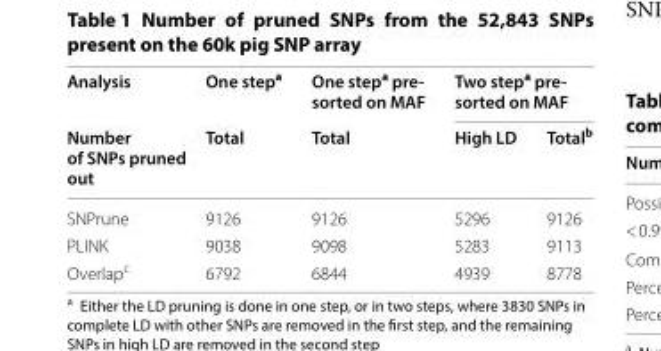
<table><thead><tr><td rowspan="2">Analysis Number of SNPs pruned out</td><td rowspan="2">One step<sup>a</sup> Total</td><td rowspan="2">One step<sup>a</sup> pre- sorted on MAF Total</td><td colspan="2">Two step<sup>a</sup> pre- sorted on MAF</td></tr><tr><td>High LD</td><td>Total<sup>b</sup></td></tr></thead><tbody><tr><td>SNPrune</td><td>9126</td><td>9126</td><td>5296</td><td>9126</td></tr><tr><td>PLINK</td><td>9038</td><td>9098</td><td>5283</td><td>9113</td></tr><tr><td>Overlap<sup>c</sup></td><td>6792</td><td>6844</td><td>4939</td><td>8778</td></tr></tbody></table>